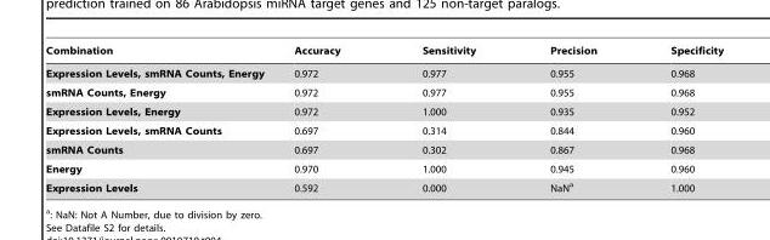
<table><thead><tr><td>Combination</td><td>Accuracy</td><td>Sensitivity</td><td>Precision</td><td>Specificity</td></tr></thead><tbody><tr><td>Expression Levels, smRNA Counts, Energy</td><td>0.972</td><td>0.977</td><td>0.955</td><td>0.968</td></tr><tr><td>smRNA Counts, Energy</td><td>0.972</td><td>0.977</td><td>0.955</td><td>0.968</td></tr><tr><td>Expression Levels, Energy</td><td>0.972</td><td>1.000</td><td>0.935</td><td>0.952</td></tr><tr><td>Expression Levels, smRNA Counts</td><td>0.697</td><td>0.314</td><td>0.844</td><td>0.960</td></tr><tr><td>smRNA Counts</td><td>0.697</td><td>0.302</td><td>0.867</td><td>0.968</td></tr><tr><td>Energy</td><td>0.970</td><td>1.000</td><td>0.945</td><td>0.960</td></tr><tr><td>Expression Levels</td><td>0.592</td><td>0.000</td><td>NaN<sup>a</sup></td><td>1.000</td></tr></tbody></table>